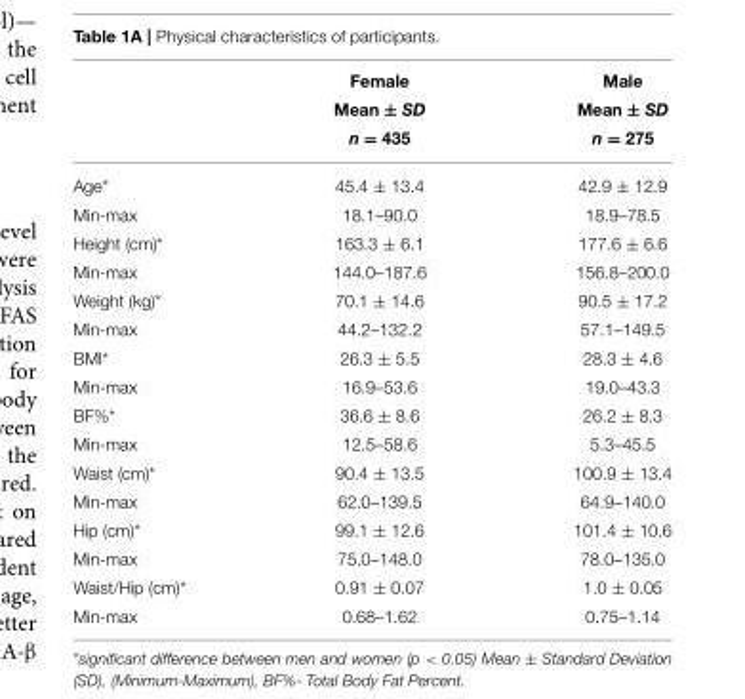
<table><thead><tr><td rowspan="3"></td><td rowspan="3">Female Mean ± SD n = 435</td><td rowspan="3">Male Mean ± SD n = 275</td></tr><tr></tr><tr></tr></thead><tbody><tr><td>Age*</td><td>45.4 ± 13.4</td><td>42.9 ± 12.9</td></tr><tr><td>Min-max</td><td>18.1–90.0</td><td>18.9–78.5</td></tr><tr><td>Height (cm)*</td><td>163.3 ± 6.1</td><td>177.6 ± 6.6</td></tr><tr><td>Min-max</td><td>144.0–187.6</td><td>156.8–200.0</td></tr><tr><td>Weight (kg)*</td><td>70.1 ± 14.6</td><td>90.5 ± 17.2</td></tr><tr><td>Min-max</td><td>44.2–132.2</td><td>57.1–149.5</td></tr><tr><td>BMI*</td><td>26.3 ± 5.5</td><td>28.3 ± 4.6</td></tr><tr><td>Min-max</td><td>16.9–53.6</td><td>19.0–43.3</td></tr><tr><td>BF%*</td><td>36.6 ± 8.6</td><td>26.2 ± 8.3</td></tr><tr><td>Min-max</td><td>12.5–58.6</td><td>5.3–45.5</td></tr><tr><td>Waist (cm)*</td><td>90.4 ± 13.5</td><td>100.9 ± 13.4</td></tr><tr><td>Min-max</td><td>62.0–139.5</td><td>64.9–140.0</td></tr><tr><td>Hip (cm)*</td><td>99.1 ± 12.6</td><td>101.4 ± 10.6</td></tr><tr><td>Min-max</td><td>75.0–148.0</td><td>78.0–135.0</td></tr><tr><td>Waist/Hip (cm)*</td><td>0.91 ± 0.07</td><td>1.0 ± 0.05</td></tr><tr><td>Min-max</td><td>0.68–1.62</td><td>0.75–1.14</td></tr></tbody></table>